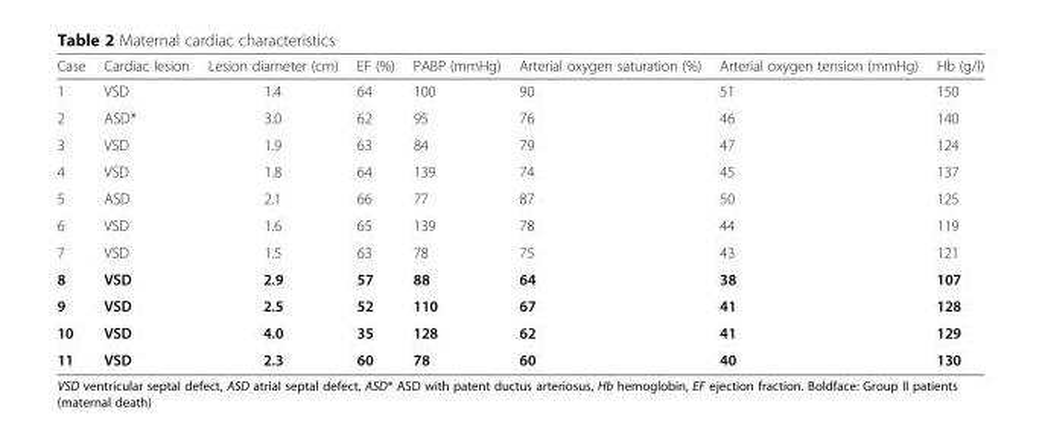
<table><thead><tr><td>Case</td><td>Cardiac lesion</td><td>Lesion diameter (cm)</td><td>EF (%)</td><td>PABP (mmHg)</td><td>Arterial oxygen saturation (%)</td><td>Arterial oxygen tension (mmHg)</td><td>Hb (g/l)</td></tr></thead><tbody><tr><td>1</td><td>VSD</td><td>1.4</td><td>64</td><td>100</td><td>90</td><td>51</td><td>150</td></tr><tr><td>2</td><td>ASD*</td><td>3.0</td><td>62</td><td>95</td><td>76</td><td>46</td><td>140</td></tr><tr><td>3</td><td>VSD</td><td>1.9</td><td>63</td><td>84</td><td>79</td><td>47</td><td>124</td></tr><tr><td>4</td><td>VSD</td><td>1.8</td><td>64</td><td>139</td><td>74</td><td>45</td><td>137</td></tr><tr><td>5</td><td>ASD</td><td>2.1</td><td>66</td><td>77</td><td>87</td><td>50</td><td>125</td></tr><tr><td>6</td><td>VSD</td><td>1.6</td><td>65</td><td>139</td><td>78</td><td>44</td><td>119</td></tr><tr><td>7</td><td>VSD</td><td>1.5</td><td>63</td><td>78</td><td>75</td><td>43</td><td>121</td></tr><tr><td>8</td><td>VSD</td><td>2.9</td><td>57</td><td>88</td><td>64</td><td>38</td><td>107</td></tr><tr><td>9</td><td>VSD</td><td>2.5</td><td>52</td><td>110</td><td>67</td><td>41</td><td>128</td></tr><tr><td>10</td><td>VSD</td><td>4.0</td><td>35</td><td>128</td><td>62</td><td>41</td><td>129</td></tr><tr><td>11</td><td>VSD</td><td>2.3</td><td>60</td><td>78</td><td>60</td><td>40</td><td>130</td></tr></tbody></table>